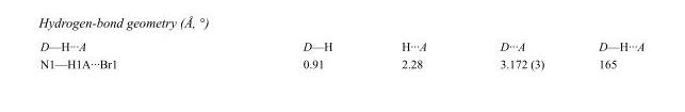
<table><tbody><tr><td>D—H···A</td><td>D—H</td><td>H···A</td><td>D···A</td><td>D—H···A</td></tr><tr><td>N1—H1A···Br1</td><td>0.91</td><td>2.28</td><td>3.172 (3)</td><td>165</td></tr></tbody></table>